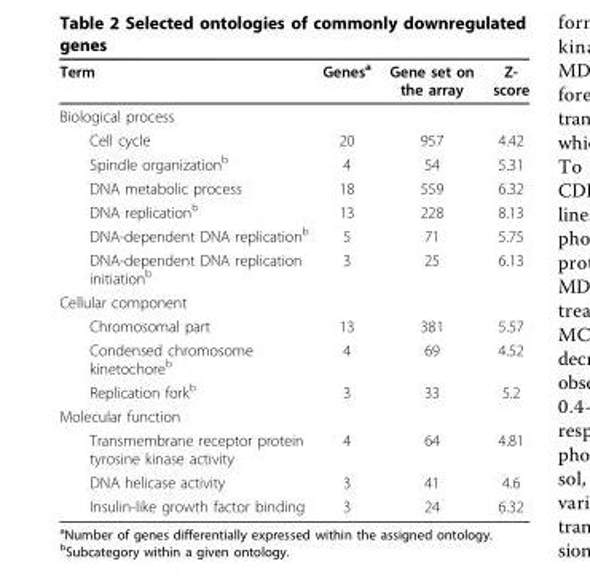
<table><thead><tr><td>Term</td><td>Genes<sup>a</sup></td><td>Gene set on the array</td><td>Z- score</td></tr></thead><tbody><tr><td colspan="4">Biological process</td></tr><tr><td>Cell cycle</td><td>20</td><td>957</td><td>4.42</td></tr><tr><td>Spindle organization<sup>b</sup></td><td>4</td><td>54</td><td>5.31</td></tr><tr><td>DNA metabolic process</td><td>18</td><td>559</td><td>6.32</td></tr><tr><td>DNA replication<sup>b</sup></td><td>13</td><td>228</td><td>8.13</td></tr><tr><td>DNA-dependent DNA replication<sup>b</sup></td><td>5</td><td>71</td><td>5.75</td></tr><tr><td>DNA-dependent DNA replication initiation<sup>b</sup></td><td>3</td><td>25</td><td>6.13</td></tr><tr><td colspan="4">Cellular component</td></tr><tr><td>Chromosomal part</td><td>13</td><td>381</td><td>5.57</td></tr><tr><td>Condensed chromosome kinetochore<sup>b</sup></td><td>4</td><td>69</td><td>4.52</td></tr><tr><td>Replication fork<sup>b</sup></td><td>3</td><td>33</td><td>5.2</td></tr><tr><td colspan="4">Molecular function</td></tr><tr><td>Transmembrane receptor protein tyrosine kinase activity</td><td>4</td><td>64</td><td>4.81</td></tr><tr><td>DNA helicase activity</td><td>3</td><td>41</td><td>4.6</td></tr><tr><td>Insulin-like growth factor binding</td><td>3</td><td>24</td><td>6.32</td></tr></tbody></table>